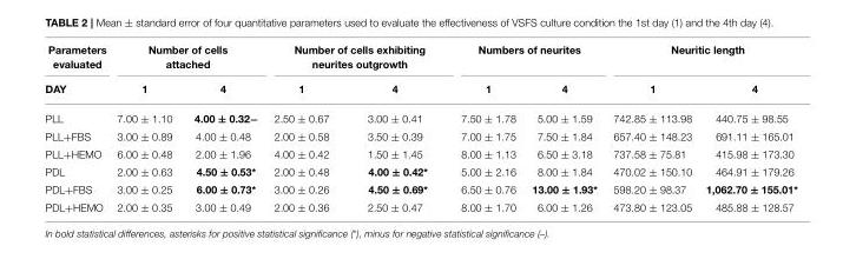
<table><thead><tr><td rowspan="2">Parameters evaluated DAY</td><td colspan="2">Number of cells attached</td><td colspan="2">Number of cells exhibiting neurites outgrowth</td><td colspan="2">Numbers of neurites</td><td colspan="2">Neuritic length</td></tr><tr><td>1</td><td>4</td><td>1</td><td>4</td><td>1</td><td>4</td><td>1</td><td>4</td></tr></thead><tbody><tr><td>PLL</td><td>7.00 ± 1.10</td><td>4.00 ± 0.32−</td><td>2.50 ± 0.67</td><td>3.00 ± 0.41</td><td>7.50 ± 1.78</td><td>5.00 ± 1.59</td><td>742.85 ± 113.98</td><td>440.75 ± 98.55</td></tr><tr><td>PLL+FBS</td><td>3.00 ± 0.89</td><td>4.00 ± 0.48</td><td>2.00 ± 0.58</td><td>3.50 ± 0.39</td><td>7.00 ± 1.75</td><td>7.50 ± 1.84</td><td>657.40 ± 148.23</td><td>691.11 ± 165.01</td></tr><tr><td>PLL+HEMO</td><td>6.00 ± 0.48</td><td>2.00 ± 1.96</td><td>4.00 ± 0.42</td><td>1.50 ± 1.45</td><td>8.00 ± 1.13</td><td>6.50 ± 3.18</td><td>737.58 ± 75.81</td><td>415.98 ± 173.30</td></tr><tr><td>PDL</td><td>2.00 ± 0.63</td><td>4.50 ± 0.53*</td><td>2.00 ± 0.48</td><td>4.00 ± 0.42*</td><td>5.00 ± 2.16</td><td>8.00 ± 1.84</td><td>470.02 ± 150.10</td><td>464.91 ± 179.26</td></tr><tr><td>PDL+FBS</td><td>3.00 ± 0.25</td><td>6.00 ± 0.73*</td><td>3.00 ± 0.26</td><td>4.50 ± 0.69*</td><td>6.50 ± 0.76</td><td>13.00 ± 1.93*</td><td>598.20 ± 98.37</td><td>1,062.70 ± 155.01*</td></tr><tr><td>PDL+HEMO</td><td>2.00 ± 0.35</td><td>3.00 ± 0.49</td><td>2.00 ± 0.36</td><td>2.50 ± 0.47</td><td>8.00 ± 1.70</td><td>6.00 ± 1.26</td><td>473.80 ± 123.05</td><td>485.88 ± 128.57</td></tr></tbody></table>